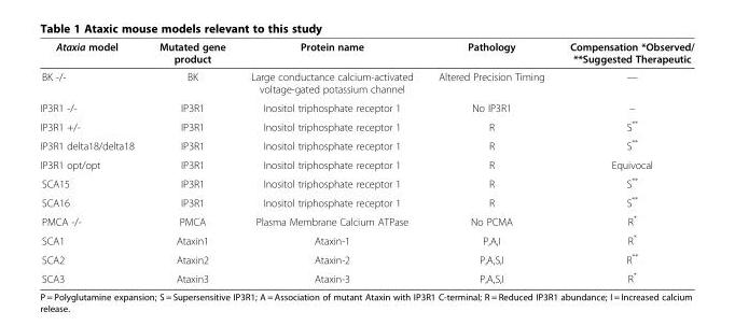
<table><thead><tr><td>Ataxia model</td><td>Mutated gene product</td><td>Protein name</td><td>Pathology</td><td>Compensation *Observed/ **Suggested Therapeutic</td></tr></thead><tbody><tr><td>BK -/-</td><td>BK</td><td>Large conductance calcium-activated voltage-gated potassium channel</td><td>Altered Precision Timing</td><td>—</td></tr><tr><td>IP3R1 -/-</td><td>IP3R1</td><td>Inositol triphosphate receptor 1</td><td>No IP3R1</td><td>–</td></tr><tr><td>IP3R1 +/-</td><td>IP3R1</td><td>Inositol triphosphate receptor 1</td><td>R</td><td>S**</td></tr><tr><td>IP3R1 delta18/delta18</td><td>IP3R1</td><td>Inositol triphosphate receptor 1</td><td>R</td><td>S**</td></tr><tr><td>IP3R1 opt/opt</td><td>IP3R1</td><td>Inositol triphosphate receptor 1</td><td>R</td><td>Equivocal</td></tr><tr><td>SCA15</td><td>IP3R1</td><td>Inositol triphosphate receptor 1</td><td>R</td><td>S**</td></tr><tr><td>SCA16</td><td>IP3R1</td><td>Inositol triphosphate receptor 1</td><td>R</td><td>S**</td></tr><tr><td>PMCA -/-</td><td>PMCA</td><td>Plasma Membrane Calcium ATPase</td><td>No PCMA</td><td>R*</td></tr><tr><td>SCA1</td><td>Ataxin1</td><td>Ataxin-1</td><td>P,A,I</td><td>R*</td></tr><tr><td>SCA2</td><td>Ataxin2</td><td>Ataxin-2</td><td>P,A,S,I</td><td>R**</td></tr><tr><td>SCA3</td><td>Ataxin3</td><td>Ataxin-3</td><td>P,A,S,I</td><td>R*</td></tr></tbody></table>